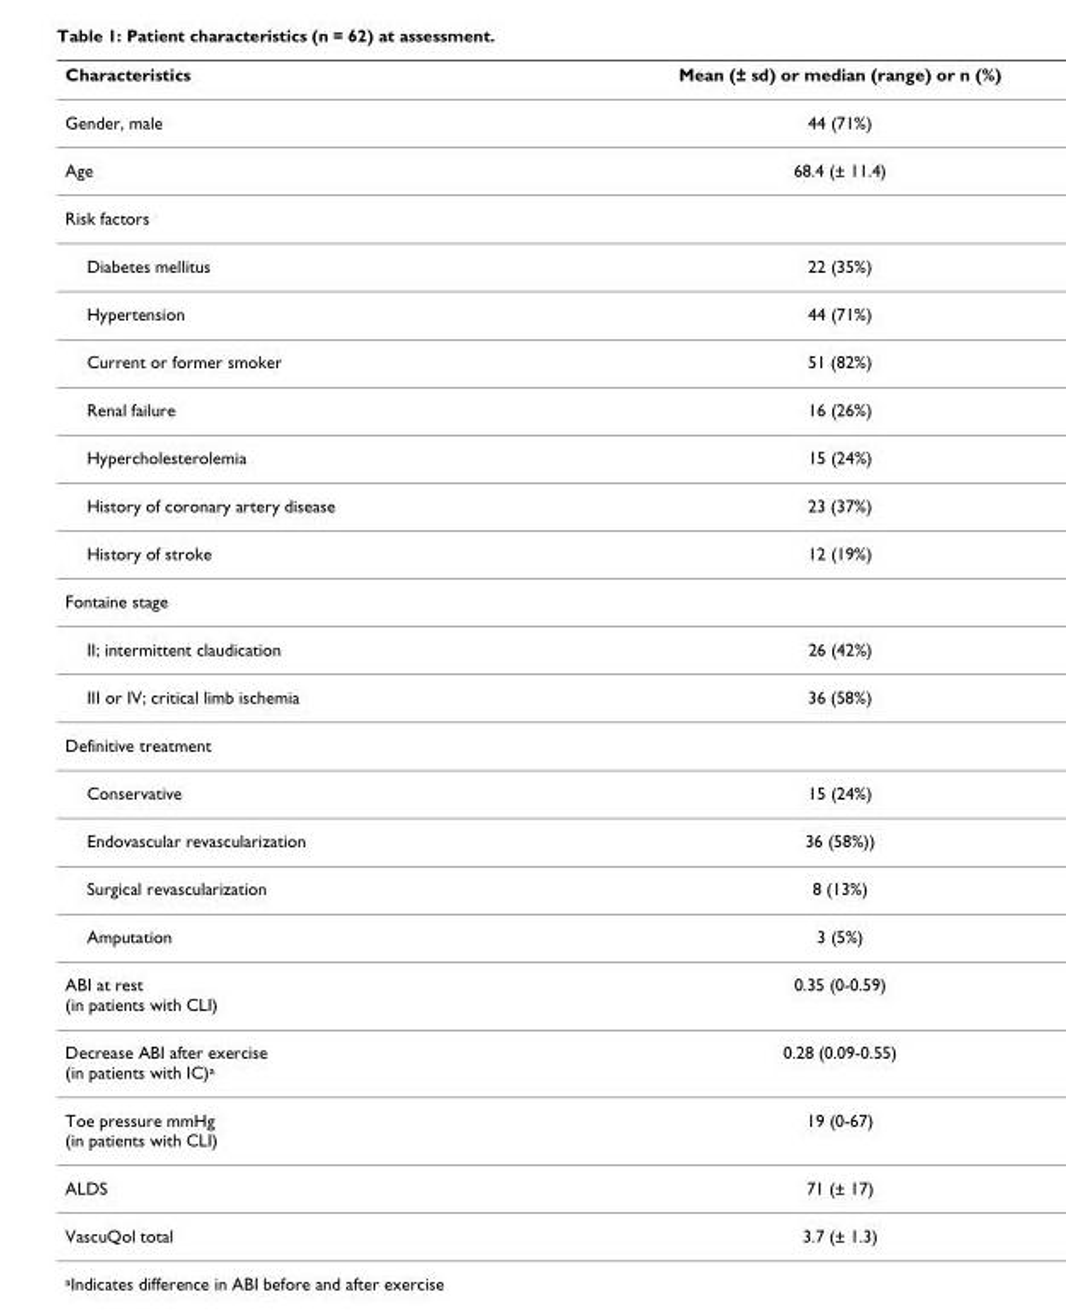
<table><thead><tr><td>Characteristics</td><td>Mean (± sd) or median (range) or n (%)</td></tr></thead><tbody><tr><td>Gender, male</td><td>44 (71%)</td></tr><tr><td>Age</td><td>68.4 (± 11.4)</td></tr><tr><td colspan="2">Risk factors</td></tr><tr><td>Diabetes mellitus</td><td>22 (35%)</td></tr><tr><td>Hypertension</td><td>44 (71%)</td></tr><tr><td>Current or former smoker</td><td>51 (82%)</td></tr><tr><td>Renal failure</td><td>16 (26%)</td></tr><tr><td>Hypercholesterolemia</td><td>15 (24%)</td></tr><tr><td>History of coronary artery disease</td><td>23 (37%)</td></tr><tr><td>History of stroke</td><td>12 (19%)</td></tr><tr><td colspan="2">Fontaine stage</td></tr><tr><td>II; intermittent claudication</td><td>26 (42%)</td></tr><tr><td>III or IV; critical limb ischemia</td><td>36 (58%)</td></tr><tr><td colspan="2">Definitive treatment</td></tr><tr><td>Conservative</td><td>15 (24%)</td></tr><tr><td>Endovascular revascularization</td><td>36 (58%))</td></tr><tr><td>Surgical revascularization</td><td>8 (13%)</td></tr><tr><td>Amputation</td><td>3 (5%)</td></tr><tr><td>ABI at rest (in patients with CLI)</td><td>0.35 (0-0.59)</td></tr><tr><td>Decrease ABI after exercise (in patients with IC)<sup>a</sup></td><td>0.28 (0.09-0.55)</td></tr><tr><td>Toe pressure mmHg (in patients with CLI)</td><td>19 (0-67)</td></tr><tr><td>ALDS</td><td>71 (± 17)</td></tr><tr><td>VascuQol total</td><td>3.7 (± 1.3)</td></tr></tbody></table>